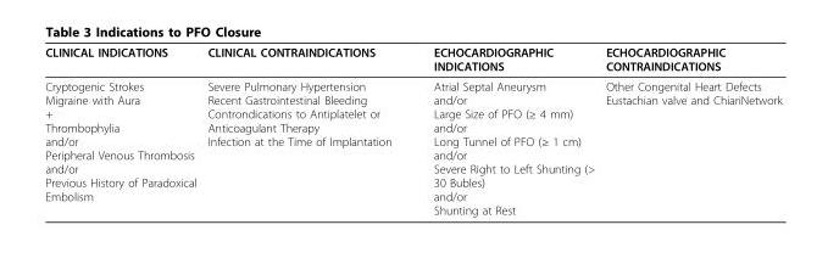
<table><thead><tr><td>CLINICAL INDICATIONS</td><td>CLINICAL CONTRAINDICATIONS</td><td>ECHOCARDIOGRAPHIC INDICATIONS</td><td>ECHOCARDIOGRAPHIC CONTRAINDICATIONS</td></tr></thead><tbody><tr><td>Cryptogenic Strokes Migraine with Aura + Thrombophylia and/or Peripheral Venous Thrombosis and/or Previous History of Paradoxical Embolism</td><td>Severe Pulmonary Hypertension Recent Gastrointestinal Bleeding Controndications to Antiplatelet or Anticoagulant Therapy Infection at the Time of Implantation</td><td>Atrial Septal Aneurysm and/or Large Size of PFO (≥ 4 mm) and/or Long Tunnel of PFO (≥ 1 cm) and/or Severe Right to Left Shunting (&gt; 30 Bubles) and/or Shunting at Rest</td><td>Other Congenital Heart Defects Eustachian valve and ChiariNetwork</td></tr></tbody></table>